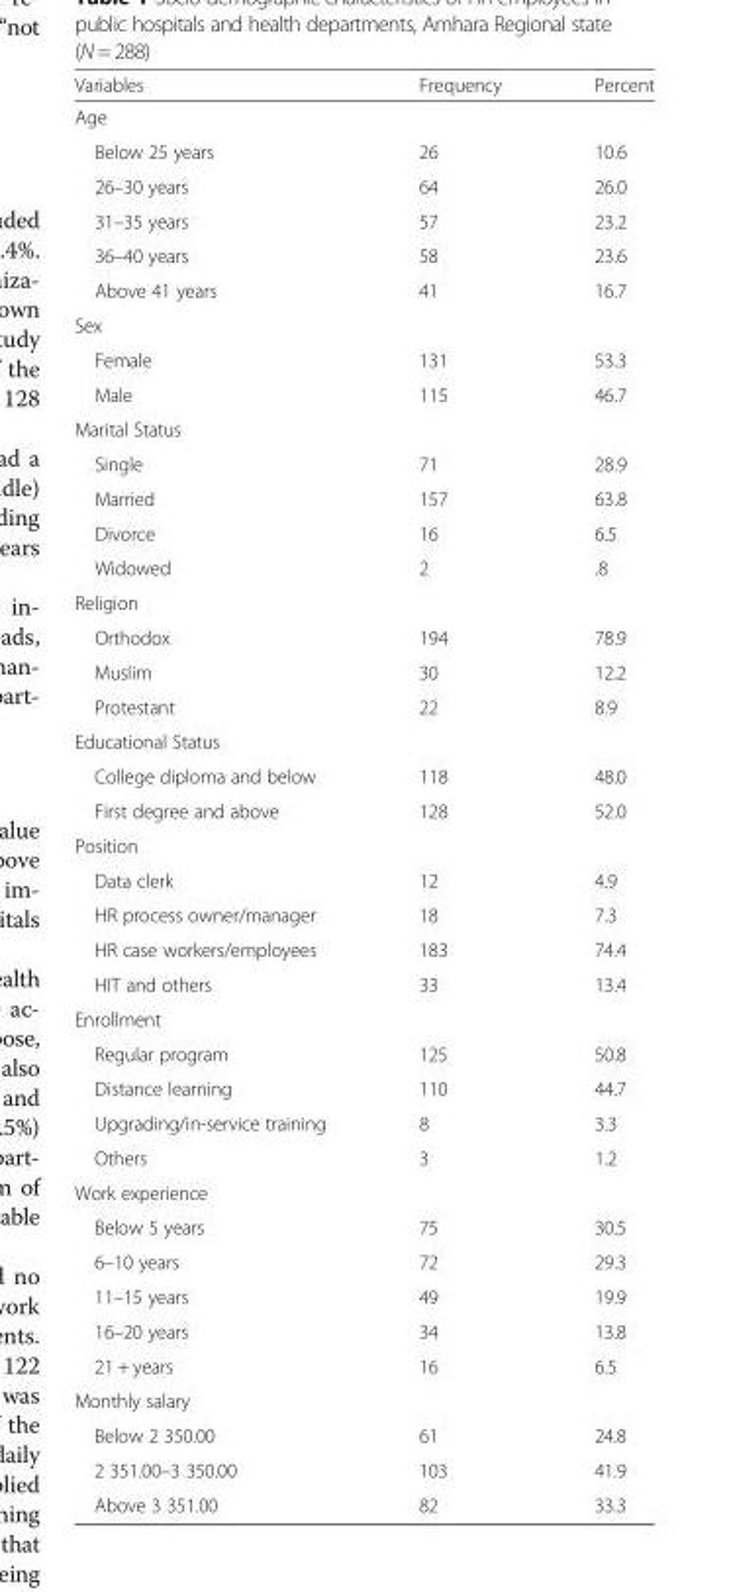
<table><thead><tr><td>Variables</td><td>Frequency</td><td>Percent</td></tr></thead><tbody><tr><td colspan="3">Age</td></tr><tr><td>Below 25 years</td><td>26</td><td>10.6</td></tr><tr><td>26–30 years</td><td>64</td><td>26.0</td></tr><tr><td>31–35 years</td><td>57</td><td>23.2</td></tr><tr><td>36–40 years</td><td>58</td><td>23.6</td></tr><tr><td>Above 41 years</td><td>41</td><td>16.7</td></tr><tr><td colspan="3">Sex</td></tr><tr><td>Female</td><td>131</td><td>53.3</td></tr><tr><td>Male</td><td>115</td><td>46.7</td></tr><tr><td colspan="3">Marital Status</td></tr><tr><td>Single</td><td>71</td><td>28.9</td></tr><tr><td>Married</td><td>157</td><td>63.8</td></tr><tr><td>Divorce</td><td>16</td><td>6.5</td></tr><tr><td>Widowed</td><td>2</td><td>.8</td></tr><tr><td colspan="3">Religion</td></tr><tr><td>Orthodox</td><td>194</td><td>78.9</td></tr><tr><td>Muslim</td><td>30</td><td>12.2</td></tr><tr><td>Protestant</td><td>22</td><td>8.9</td></tr><tr><td colspan="3">Educational Status</td></tr><tr><td>College diploma and below</td><td>118</td><td>48.0</td></tr><tr><td>First degree and above</td><td>128</td><td>52.0</td></tr><tr><td colspan="3">Position</td></tr><tr><td>Data clerk</td><td>12</td><td>4.9</td></tr><tr><td>HR process owner/manager</td><td>18</td><td>7.3</td></tr><tr><td>HR case workers/employees</td><td>183</td><td>74.4</td></tr><tr><td>HIT and others</td><td>33</td><td>13.4</td></tr><tr><td colspan="3">Enrollment</td></tr><tr><td>Regular program</td><td>125</td><td>50.8</td></tr><tr><td>Distance learning</td><td>110</td><td>44.7</td></tr><tr><td>Upgrading/in-service training</td><td>8</td><td>3.3</td></tr><tr><td>Others</td><td>3</td><td>1.2</td></tr><tr><td colspan="3">Work experience</td></tr><tr><td>Below 5 years</td><td>75</td><td>30.5</td></tr><tr><td>6–10 years</td><td>72</td><td>29.3</td></tr><tr><td>11–15 years</td><td>49</td><td>19.9</td></tr><tr><td>16–20 years</td><td>34</td><td>13.8</td></tr><tr><td>21 + years</td><td>16</td><td>6.5</td></tr><tr><td colspan="3">Monthly salary</td></tr><tr><td>Below 2 350.00</td><td>61</td><td>24.8</td></tr><tr><td>2 351.00–3 350.00</td><td>103</td><td>41.9</td></tr><tr><td>Above 3 351.00</td><td>82</td><td>33.3</td></tr></tbody></table>